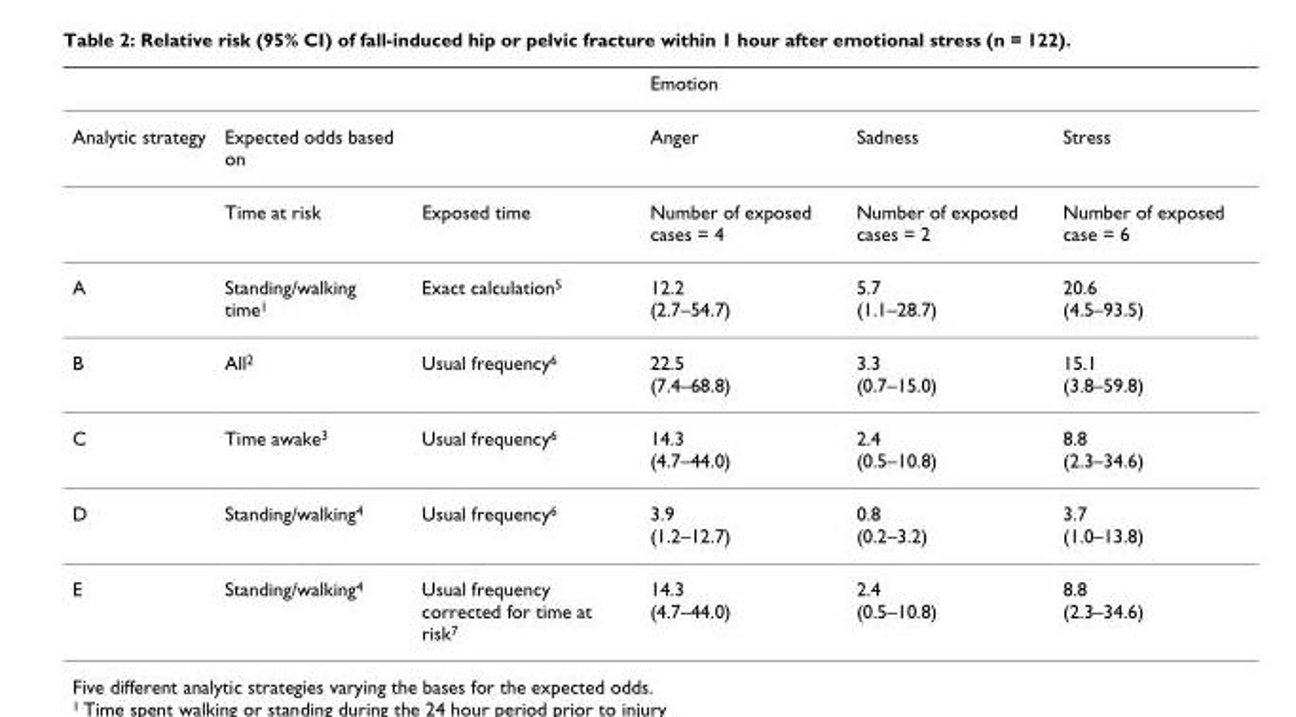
<table><thead><tr><td></td><td></td><td></td><td>Emotion</td><td></td><td></td></tr></thead><tbody><tr><td rowspan="2">Analytic strategy</td><td>Expected odds based on</td><td></td><td>Anger</td><td>Sadness</td><td>Stress</td></tr><tr><td>Time at risk</td><td>Exposed time</td><td>Number of exposed cases = 4</td><td>Number of exposed cases = 2</td><td>Number of exposed case = 6</td></tr><tr><td>A</td><td>Standing/walking time<sup>1</sup></td><td>Exact calculation<sup>5</sup></td><td>12.2 (2.7–54.7)</td><td>5.7 (1.1–28.7)</td><td>20.6 (4.5–93.5)</td></tr><tr><td>B</td><td>All<sup>2</sup></td><td>Usual frequency<sup>6</sup></td><td>22.5 (7.4–68.8)</td><td>3.3 (0.7–15.0)</td><td>15.1 (3.8–59.8)</td></tr><tr><td>C</td><td>Time awake<sup>3</sup></td><td>Usual frequency<sup>6</sup></td><td>14.3 (4.7–44.0)</td><td>2.4 (0.5–10.8)</td><td>8.8 (2.3–34.6)</td></tr><tr><td>D</td><td>Standing/walking<sup>4</sup></td><td>Usual frequency<sup>6</sup></td><td>3.9 (1.2–12.7)</td><td>0.8 (0.2–3.2)</td><td>3.7 (1.0–13.8)</td></tr><tr><td>E</td><td>Standing/walking<sup>4</sup></td><td>Usual frequency corrected for time at risk<sup>7</sup></td><td>14.3 (4.7–44.0)</td><td>2.4 (0.5–10.8)</td><td>8.8 (2.3–34.6)</td></tr></tbody></table>